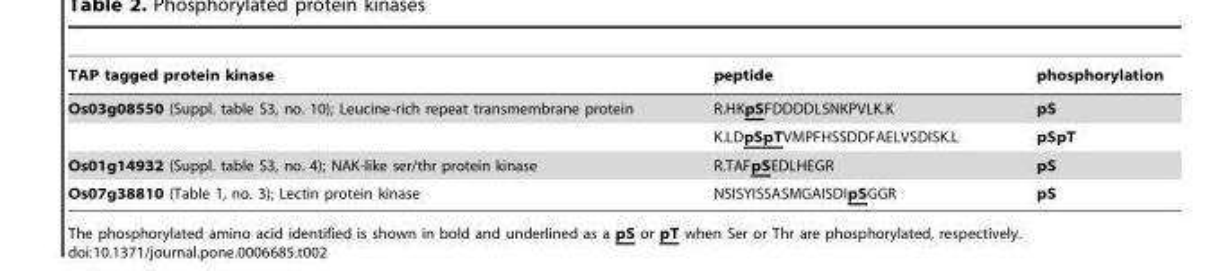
<table><thead><tr><td>TAP tagged protein kinase</td><td>peptide</td><td>phosphorylation</td></tr></thead><tbody><tr><td rowspan="2">Os03g08550 (Suppl. table S3, no. 10); Leucine-rich repeat transmembrane protein</td><td>R.HKpSFDDDDLSNKPVLK.K</td><td>pS</td></tr><tr><td>K.LDpSpTVMPFHSSDDFAELVSDISK.L</td><td>pSpT</td></tr><tr><td>Os01g14932 (Suppl. table S3, no. 4); NAK-like ser/thr protein kinase</td><td>R.TAFpSEDLHEGR</td><td>pS</td></tr><tr><td>Os07g38810 (Table 1, no. 3); Lectin protein kinase</td><td>NSISYISSASMGAISDIpSGGR</td><td>pS</td></tr></tbody></table>